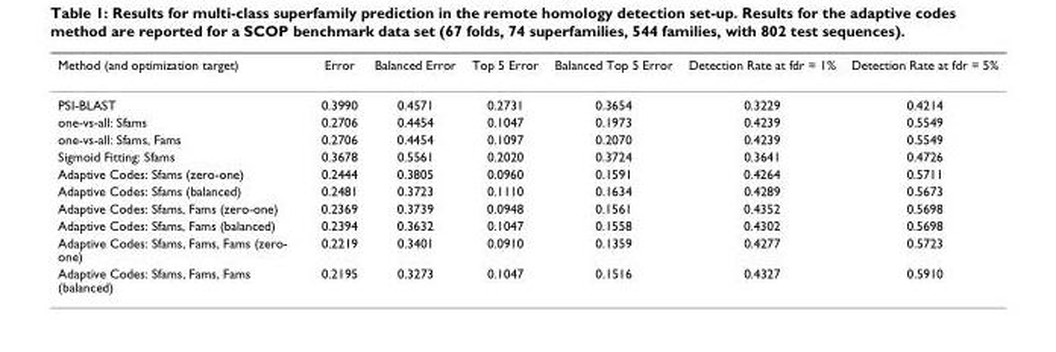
<table><thead><tr><td>Method (and optimization target)</td><td>Error</td><td>Balanced Error</td><td>Top 5 Error</td><td>Balanced Top 5 Error</td><td>Detection Rate at fdr = 1%</td><td>Detection Rate at fdr = 5%</td></tr></thead><tbody><tr><td>PSI-BLAST</td><td>0.3990</td><td>0.4571</td><td>0.2731</td><td>0.3654</td><td>0.3229</td><td>0.4214</td></tr><tr><td>one-vs-all: Sfams</td><td>0.2706</td><td>0.4454</td><td>0.1047</td><td>0.1973</td><td>0.4239</td><td>0.5549</td></tr><tr><td>one-vs-all: Sfams, Fams</td><td>0.2706</td><td>0.4454</td><td>0.1097</td><td>0.2070</td><td>0.4239</td><td>0.5549</td></tr><tr><td>Sigmoid Fitting: Sfams</td><td>0.3678</td><td>0.5561</td><td>0.2020</td><td>0.3724</td><td>0.3641</td><td>0.4726</td></tr><tr><td>Adaptive Codes: Sfams (zero-one)</td><td>0.2444</td><td>0.3805</td><td>0.0960</td><td>0.1591</td><td>0.4264</td><td>0.5711</td></tr><tr><td>Adaptive Codes: Sfams (balanced)</td><td>0.2481</td><td>0.3723</td><td>0.1110</td><td>0.1634</td><td>0.4289</td><td>0.5673</td></tr><tr><td>Adaptive Codes: Sfams, Fams (zero-one)</td><td>0.2369</td><td>0.3739</td><td>0.0948</td><td>0.1561</td><td>0.4352</td><td>0.5698</td></tr><tr><td>Adaptive Codes: Sfams, Fams (balanced)</td><td>0.2394</td><td>0.3632</td><td>0.1047</td><td>0.1558</td><td>0.4302</td><td>0.5698</td></tr><tr><td>Adaptive Codes: Sfams, Fams, Fams (zero- one)</td><td>0.2219</td><td>0.3401</td><td>0.0910</td><td>0.1359</td><td>0.4277</td><td>0.5723</td></tr><tr><td>Adaptive Codes: Sfams, Fams, Fams (balanced)</td><td>0.2195</td><td>0.3273</td><td>0.1047</td><td>0.1516</td><td>0.4327</td><td>0.5910</td></tr></tbody></table>